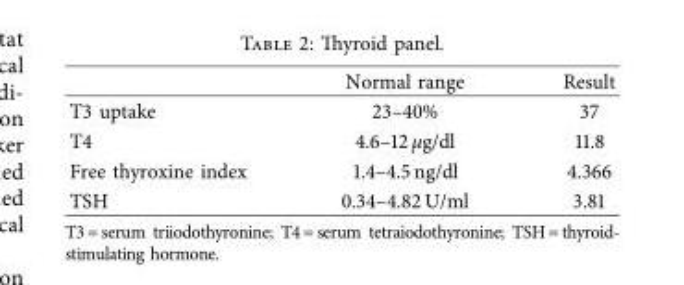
<table><thead><tr><td></td><td>Normal range</td><td>Result</td></tr></thead><tbody><tr><td>T3 uptake</td><td>23–40%</td><td>37</td></tr><tr><td>T4</td><td>4.6–12 μg/dl</td><td>11.8</td></tr><tr><td>Free thyroxine index</td><td>1.4–4.5 ng/dl</td><td>4.366</td></tr><tr><td>TSH</td><td>0.34–4.82 U/ml</td><td>3.81</td></tr></tbody></table>